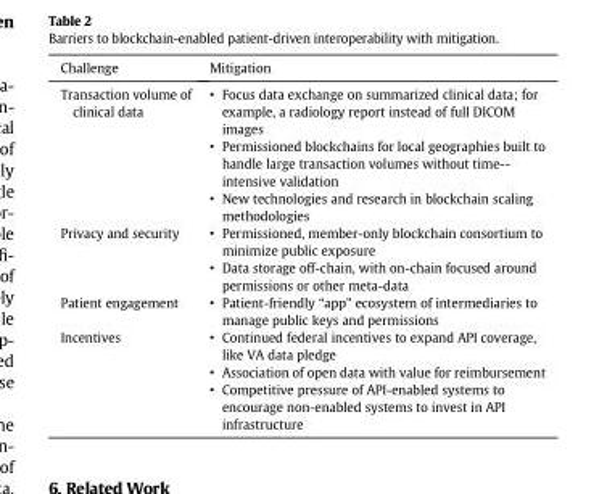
<table><thead><tr><td>Challenge</td><td>Mitigation</td></tr></thead><tbody><tr><td>Transaction volume of clinical data</td><td>• Focus data exchange on summarized clinical data; for example, a radiology report instead of full DICOM images • Permissioned blockchains for local geographies built to handle large transaction volumes without time-- intensive validation • New technologies and research in blockchain scaling methodologies</td></tr><tr><td>Privacy and security</td><td>• Permissioned, member-only blockchain consortium to minimize public exposure • Data storage off-chain, with on-chain focused around permissions or other meta-data</td></tr><tr><td>Patient engagement</td><td>• Patient-friendly “app” ecosystem of intermediaries to manage public keys and permissions</td></tr><tr><td>Incentives</td><td>• Continued federal incentives to expand API coverage, like VA data pledge • Association of open data with value for reimbursement • Competitive pressure of API-enabled systems to encourage non-enabled systems to invest in API infrastructure</td></tr></tbody></table>